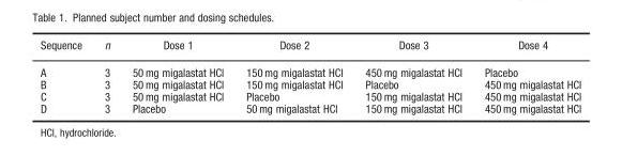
<table><thead><tr><td>Sequence</td><td>n</td><td>Dose 1</td><td>Dose 2</td><td>Dose 3</td><td>Dose 4</td></tr></thead><tbody><tr><td>A</td><td>3</td><td>50 mg migalastat HCl</td><td>150 mg migalastat HCl</td><td>450 mg migalastat HCl</td><td>Placebo</td></tr><tr><td>B</td><td>3</td><td>50 mg migalastat HCl</td><td>150 mg migalastat HCl</td><td>Placebo</td><td>450 mg migalastat HCl</td></tr><tr><td>C</td><td>3</td><td>50 mg migalastat HCl</td><td>Placebo</td><td>150 mg migalastat HCl</td><td>450 mg migalastat HCl</td></tr><tr><td>D</td><td>3</td><td>Placebo</td><td>50 mg migalastat HCl</td><td>150 mg migalastat HCl</td><td>450 mg migalastat HCl</td></tr></tbody></table>